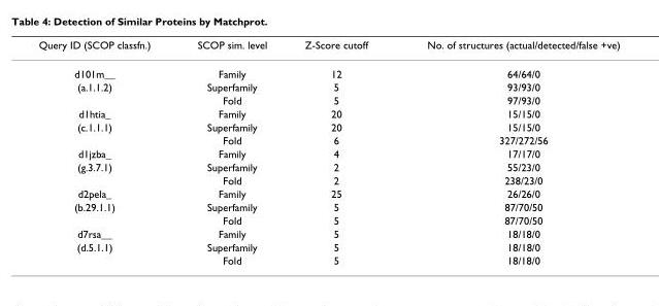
<table><thead><tr><td>Query ID (SCOP classfn.)</td><td>SCOP sim. level</td><td>Z-Score cutoff</td><td>No. of structures (actual/detected/false +ve)</td></tr></thead><tbody><tr><td>d101m__</td><td>Family</td><td>12</td><td>64/64/0</td></tr><tr><td rowspan="2">(a.1.1.2)</td><td>Superfamily</td><td>5</td><td>93/93/0</td></tr><tr><td>Fold</td><td>5</td><td>97/93/0</td></tr><tr><td>d1htia_</td><td>Family</td><td>20</td><td>15/15/0</td></tr><tr><td rowspan="2">(c.1.1.1)</td><td>Superfamily</td><td>20</td><td>15/15/0</td></tr><tr><td>Fold</td><td>6</td><td>327/272/56</td></tr><tr><td>d1jzba_</td><td>Family</td><td>4</td><td>17/17/0</td></tr><tr><td rowspan="2">(g.3.7.1)</td><td>Superfamily</td><td>2</td><td>55/23/0</td></tr><tr><td>Fold</td><td>2</td><td>238/23/0</td></tr><tr><td>d2pela_</td><td>Family</td><td>25</td><td>26/26/0</td></tr><tr><td rowspan="2">(b.29.1.1)</td><td>Superfamily</td><td>5</td><td>87/70/50</td></tr><tr><td>Fold</td><td>5</td><td>87/70/50</td></tr><tr><td>d7rsa__</td><td>Family</td><td>5</td><td>18/18/0</td></tr><tr><td rowspan="2">(d.5.1.1)</td><td>Superfamily</td><td>5</td><td>18/18/0</td></tr><tr><td>Fold</td><td>5</td><td>18/18/0</td></tr></tbody></table>